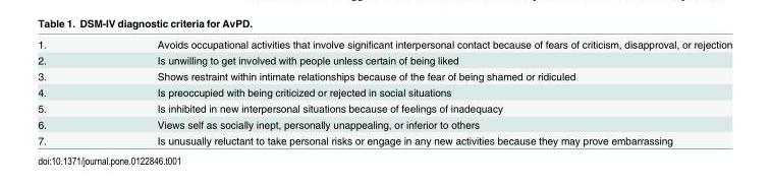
<table><tbody><tr><td>1.</td><td>Avoids occupational activities that involve significant interpersonal contact because of fears of criticism, disapproval, or rejection</td></tr><tr><td>2.</td><td>Is unwilling to get involved with people unless certain of being liked</td></tr><tr><td>3.</td><td>Shows restraint within intimate relationships because of the fear of being shamed or ridiculed</td></tr><tr><td>4.</td><td>Is preoccupied with being criticized or rejected in social situations</td></tr><tr><td>5.</td><td>Is inhibited in new interpersonal situations because of feelings of inadequacy</td></tr><tr><td>6.</td><td>Views self as socially inept, personally unappealing, or inferior to others</td></tr><tr><td>7.</td><td>Is unusually reluctant to take personal risks or engage in any new activities because they may prove embarrassing</td></tr></tbody></table>